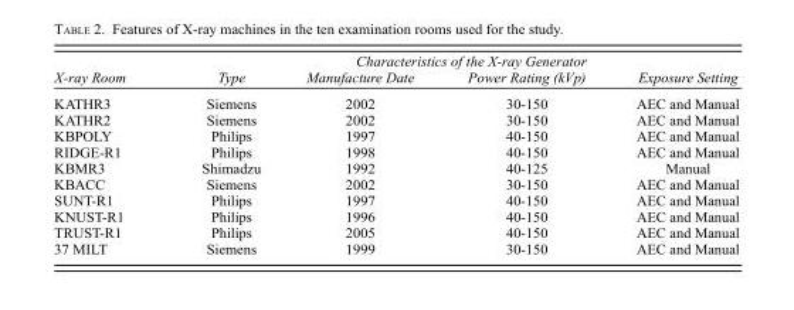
<table><thead><tr><td rowspan="2">X-ray Room</td><td rowspan="2">Type</td><td colspan="2">Characteristics of the X-ray Generator</td><td rowspan="2">Exposure Setting</td></tr><tr><td>Manufacture Date</td><td>Power Rating (kVp)</td></tr></thead><tbody><tr><td>KATHR3</td><td>Siemens</td><td>2002</td><td>30-150</td><td>AEC and Manual</td></tr><tr><td>KATHR2</td><td>Siemens</td><td>2002</td><td>30-150</td><td>AEC and Manual</td></tr><tr><td>KBPOLY</td><td>Philips</td><td>1997</td><td>40-150</td><td>AEC and Manual</td></tr><tr><td>RIDGE-R1</td><td>Philips</td><td>1998</td><td>40-150</td><td>AEC and Manual</td></tr><tr><td>KBMR3</td><td>Shimadzu</td><td>1992</td><td>40-125</td><td>Manual</td></tr><tr><td>KBACC</td><td>Siemens</td><td>2002</td><td>30-150</td><td>AEC and Manual</td></tr><tr><td>SUNT-R1</td><td>Philips</td><td>1997</td><td>40-150</td><td>AEC and Manual</td></tr><tr><td>KNUST-R1</td><td>Philips</td><td>1996</td><td>40-150</td><td>AEC and Manual</td></tr><tr><td>TRUST-R1</td><td>Philips</td><td>2005</td><td>40-150</td><td>AEC and Manual</td></tr><tr><td>37 MILT</td><td>Siemens</td><td>1999</td><td>30-150</td><td>AEC and Manual</td></tr></tbody></table>